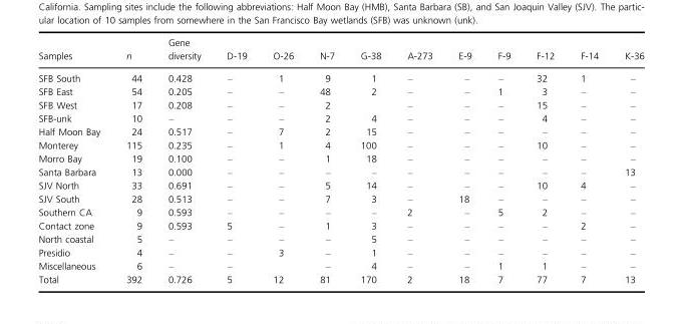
<table><thead><tr><td>Samples</td><td>n</td><td>Gene diversity</td><td>D-19</td><td>O-26</td><td>N-7</td><td>G-38</td><td>A-273</td><td>E-9</td><td>F-9</td><td>F-12</td><td>F-14</td><td>K-36</td></tr></thead><tbody><tr><td>SFB South</td><td>44</td><td>0.428</td><td>–</td><td>1</td><td>9</td><td>1</td><td>–</td><td>–</td><td>–</td><td>32</td><td>1</td><td>–</td></tr><tr><td>SFB East</td><td>54</td><td>0.205</td><td>–</td><td>–</td><td>48</td><td>2</td><td>–</td><td>–</td><td>1</td><td>3</td><td>–</td><td>–</td></tr><tr><td>SFB West</td><td>17</td><td>0.208</td><td>–</td><td>–</td><td>2</td><td></td><td>–</td><td>–</td><td>–</td><td>15</td><td>–</td><td>–</td></tr><tr><td>SFB-unk</td><td>10</td><td>–</td><td>–</td><td>–</td><td>2</td><td>4</td><td>–</td><td>–</td><td>–</td><td>4</td><td>–</td><td>–</td></tr><tr><td>Half Moon Bay</td><td>24</td><td>0.517</td><td>–</td><td>7</td><td>2</td><td>15</td><td>–</td><td>–</td><td>–</td><td>–</td><td>–</td><td>–</td></tr><tr><td>Monterey</td><td>115</td><td>0.235</td><td>–</td><td>1</td><td>4</td><td>100</td><td>–</td><td>–</td><td>–</td><td>10</td><td>–</td><td>–</td></tr><tr><td>Morro Bay</td><td>19</td><td>0.100</td><td>–</td><td>–</td><td>1</td><td>18</td><td>–</td><td>–</td><td>–</td><td>–</td><td>–</td><td>–</td></tr><tr><td>Santa Barbara</td><td>13</td><td>0.000</td><td>–</td><td>–</td><td>–</td><td>–</td><td>–</td><td>–</td><td>–</td><td>–</td><td>–</td><td>13</td></tr><tr><td>SJV North</td><td>33</td><td>0.691</td><td>–</td><td>–</td><td>5</td><td>14</td><td>–</td><td>–</td><td>–</td><td>10</td><td>4</td><td>–</td></tr><tr><td>SJV South</td><td>28</td><td>0.513</td><td>–</td><td>–</td><td>7</td><td>3</td><td>–</td><td>18</td><td>–</td><td>–</td><td>–</td><td>–</td></tr><tr><td>Southern CA</td><td>9</td><td>0.593</td><td>–</td><td>–</td><td>–</td><td>–</td><td>2</td><td>–</td><td>5</td><td>2</td><td>–</td><td>–</td></tr><tr><td>Contact zone</td><td>9</td><td>0.593</td><td>5</td><td>–</td><td>1</td><td>3</td><td>–</td><td>–</td><td>–</td><td>–</td><td>2</td><td>–</td></tr><tr><td>North coastal</td><td>5</td><td>–</td><td>–</td><td>–</td><td>–</td><td>5</td><td>–</td><td>–</td><td>–</td><td>–</td><td>–</td><td>–</td></tr><tr><td>Presidio</td><td>4</td><td>–</td><td>–</td><td>3</td><td>–</td><td>1</td><td>–</td><td>–</td><td>–</td><td>–</td><td>–</td><td>–</td></tr><tr><td>Miscellaneous</td><td>6</td><td>–</td><td>–</td><td></td><td>–</td><td>4</td><td>–</td><td>–</td><td>1</td><td>1</td><td>–</td><td>–</td></tr><tr><td>Total</td><td>392</td><td>0.726</td><td>5</td><td>12</td><td>81</td><td>170</td><td>2</td><td>18</td><td>7</td><td>77</td><td>7</td><td>13</td></tr></tbody></table>